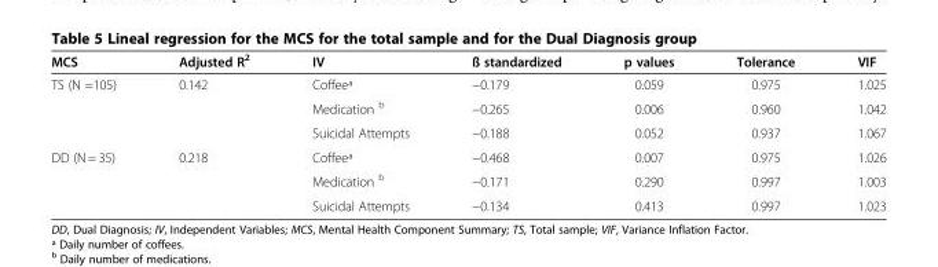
<table><thead><tr><td>MCS</td><td>Adjusted R<sup>2</sup></td><td>IV</td><td>ß standardized</td><td>p values</td><td>Tolerance</td><td>VIF</td></tr></thead><tbody><tr><td rowspan="3">TS (N =105)</td><td>0.142</td><td>Coffee<sup>ª</sup></td><td>−0.179</td><td>0.059</td><td>0.975</td><td>1.025</td></tr><tr><td></td><td>Medication <sup>b</sup></td><td>−0.265</td><td>0.006</td><td>0.960</td><td>1.042</td></tr><tr><td></td><td>Suicidal Attempts</td><td>−0.188</td><td>0.052</td><td>0.937</td><td>1.067</td></tr><tr><td rowspan="3">DD (N = 35)</td><td>0.218</td><td>Coffee<sup>ª</sup></td><td>−0.468</td><td>0.007</td><td>0.975</td><td>1.026</td></tr><tr><td></td><td>Medication <sup>b</sup></td><td>−0.171</td><td>0.290</td><td>0.997</td><td>1.003</td></tr><tr><td></td><td>Suicidal Attempts</td><td>−0.134</td><td>0.413</td><td>0.997</td><td>1.023</td></tr></tbody></table>